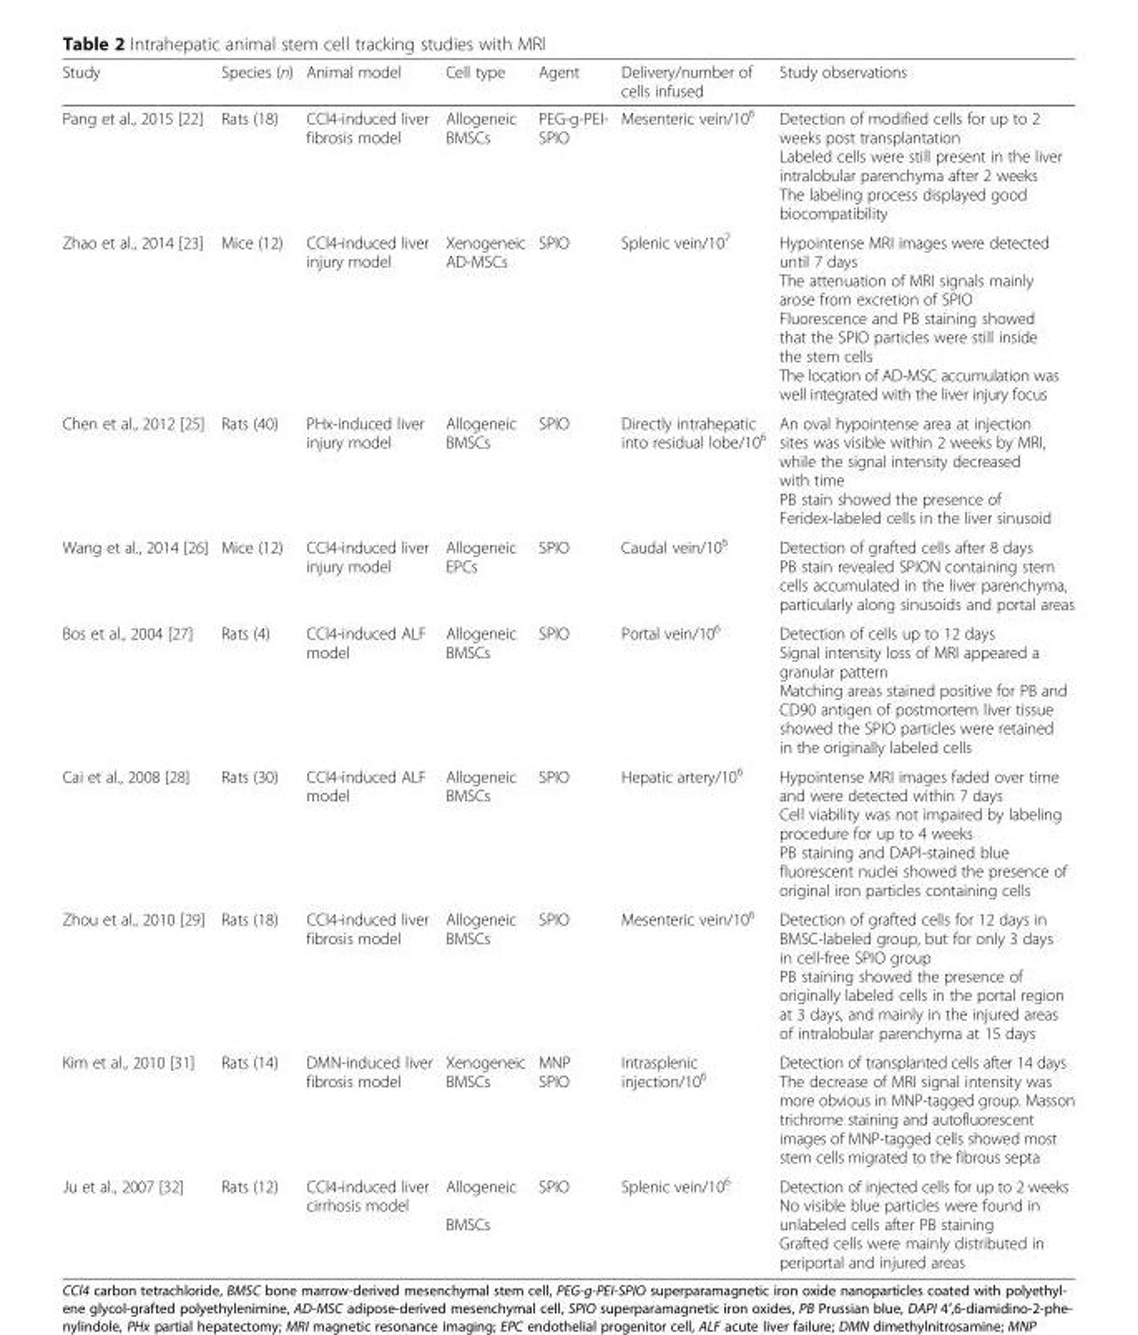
<table><thead><tr><td>Study</td><td>Species (n)</td><td>Animal model</td><td>Cell type</td><td>Agent</td><td>Delivery/number of cells infused</td><td>Study observations</td></tr></thead><tbody><tr><td>Pang et al., 2015 [22]</td><td>Rats (18)</td><td>CCl4-induced liver fibrosis model</td><td>Allogeneic BMSCs</td><td>PEG-g-PEI- SPIO</td><td>Mesenteric vein/10<sup>6</sup></td><td>Detection of modified cells for up to 2 weeks post transplantation Labeled cells were still present in the liver intralobular parenchyma after 2 weeks The labeling process displayed good biocompatibility</td></tr><tr><td>Zhao et al., 2014 [23]</td><td>Mice (12)</td><td>CCl4-induced liver injury model</td><td>Xenogeneic AD-MSCs</td><td>SPIO</td><td>Splenic vein/10<sup>7</sup></td><td>Hypointense MRI images were detected until 7 days The attenuation of MRI signals mainly arose from excretion of SPIO Fluorescence and PB staining showed that the SPIO particles were still inside the stem cells The location of AD-MSC accumulation was well integrated with the liver injury focus</td></tr><tr><td>Chen et al., 2012 [25]</td><td>Rats (40)</td><td>PHx-induced liver injury model</td><td>Allogeneic BMSCs</td><td>SPIO</td><td>Directly intrahepatic into residual lobe/10<sup>6</sup></td><td>An oval hypointense area at injection sites was visible within 2 weeks by MRI, while the signal intensity decreased with time PB stain showed the presence of Feridex-labeled cells in the liver sinusoid</td></tr><tr><td>Wang et al., 2014 [26]</td><td>Mice (12)</td><td>CCl4-induced liver injury model</td><td>Allogeneic EPCs</td><td>SPIO</td><td>Caudal vein/10<sup>6</sup></td><td>Detection of grafted cells after 8 days PB stain revealed SPION containing stem cells accumulated in the liver parenchyma, particularly along sinusoids and portal areas</td></tr><tr><td>Bos et al., 2004 [27]</td><td>Rats (4)</td><td>CCl4-induced ALF model</td><td>Allogeneic BMSCs</td><td>SPIO</td><td>Portal vein/10<sup>6</sup></td><td>Detection of cells up to 12 days Signal intensity loss of MRI appeared a granular pattern Matching areas stained positive for PB and CD90 antigen of postmortem liver tissue showed the SPIO particles were retained in the originally labeled cells</td></tr><tr><td>Cai et al., 2008 [28]</td><td>Rats (30)</td><td>CCl4-induced ALF model</td><td>Allogeneic BMSCs</td><td>SPIO</td><td>Hepatic artery/10<sup>6</sup></td><td>Hypointense MRI images faded over time and were detected within 7 days Cell viability was not impaired by labeling procedure for up to 4 weeks PB staining and DAPI-stained blue fluorescent nuclei showed the presence of original iron particles containing cells</td></tr><tr><td>Zhou et al., 2010 [29]</td><td>Rats (18)</td><td>CCl4-induced liver fibrosis model</td><td>Allogeneic BMSCs</td><td>SPIO</td><td>Mesenteric vein/10<sup>6</sup></td><td>Detection of grafted cells for 12 days in BMSC-labeled group, but for only 3 days in cell-free SPIO group PB staining showed the presence of originally labeled cells in the portal region at 3 days, and mainly in the injured areas of intralobular parenchyma at 15 days</td></tr><tr><td>Kim et al., 2010 [31]</td><td>Rats (14)</td><td>DMN-induced liver fibrosis model</td><td>Xenogeneic BMSCs</td><td>MNP SPIO</td><td>Intrasplenic injection/10<sup>6</sup></td><td>Detection of transplanted cells after 14 days The decrease of MRI signal intensity was more obvious in MNP-tagged group. Masson trichrome staining and autofluorescent images of MNP-tagged cells showed most stem cells migrated to the fibrous septa</td></tr><tr><td>Ju et al., 2007 [32]</td><td>Rats (12)</td><td>CCl4-induced liver cirrhosis model</td><td>Allogeneic BMSCs</td><td>SPIO</td><td>Splenic vein/10<sup>6</sup></td><td>Detection of injected cells for up to 2 weeks No visible blue particles were found in unlabeled cells after PB staining Grafted cells were mainly distributed in periportal and injured areas</td></tr></tbody></table>